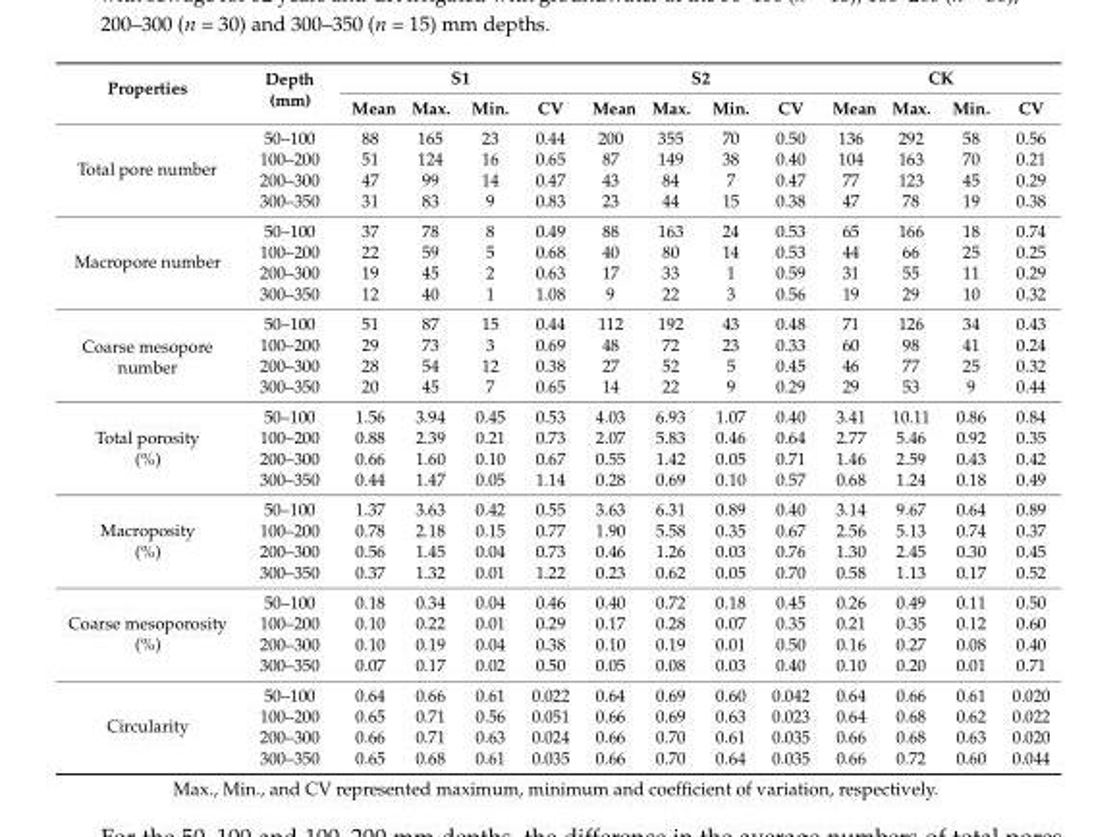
<table><thead><tr><td rowspan="2">Properties</td><td rowspan="2">Depth (mm)</td><td colspan="4">S1</td><td colspan="4">S2</td><td colspan="4">CK</td></tr><tr><td>Mean</td><td>Max.</td><td>Min.</td><td>CV</td><td>Mean</td><td>Max.</td><td>Min.</td><td>CV</td><td>Mean</td><td>Max.</td><td>Min.</td><td>CV</td></tr></thead><tbody><tr><td rowspan="4">Total pore number</td><td>50–100</td><td>88</td><td>165</td><td>23</td><td>0.44</td><td>200</td><td>355</td><td>70</td><td>0.50</td><td>136</td><td>292</td><td>58</td><td>0.56</td></tr><tr><td>100–200</td><td>51</td><td>124</td><td>16</td><td>0.65</td><td>87</td><td>149</td><td>38</td><td>0.40</td><td>104</td><td>163</td><td>70</td><td>0.21</td></tr><tr><td>200–300</td><td>47</td><td>99</td><td>14</td><td>0.47</td><td>43</td><td>84</td><td>7</td><td>0.47</td><td>77</td><td>123</td><td>45</td><td>0.29</td></tr><tr><td>300–350</td><td>31</td><td>83</td><td>9</td><td>0.83</td><td>23</td><td>44</td><td>15</td><td>0.38</td><td>47</td><td>78</td><td>19</td><td>0.38</td></tr><tr><td rowspan="4">Macropore number</td><td>50–100</td><td>37</td><td>78</td><td>8</td><td>0.49</td><td>88</td><td>163</td><td>24</td><td>0.53</td><td>65</td><td>166</td><td>18</td><td>0.74</td></tr><tr><td>100–200</td><td>22</td><td>59</td><td>5</td><td>0.68</td><td>40</td><td>80</td><td>14</td><td>0.53</td><td>44</td><td>66</td><td>25</td><td>0.25</td></tr><tr><td>200–300</td><td>19</td><td>45</td><td>2</td><td>0.63</td><td>17</td><td>33</td><td>1</td><td>0.59</td><td>31</td><td>55</td><td>11</td><td>0.29</td></tr><tr><td>300–350</td><td>12</td><td>40</td><td>1</td><td>1.08</td><td>9</td><td>22</td><td>3</td><td>0.56</td><td>19</td><td>29</td><td>10</td><td>0.32</td></tr><tr><td rowspan="4">Coarse mesopore number</td><td>50–100</td><td>51</td><td>87</td><td>15</td><td>0.44</td><td>112</td><td>192</td><td>43</td><td>0.48</td><td>71</td><td>126</td><td>34</td><td>0.43</td></tr><tr><td>100–200</td><td>29</td><td>73</td><td>3</td><td>0.69</td><td>48</td><td>72</td><td>23</td><td>0.33</td><td>60</td><td>98</td><td>41</td><td>0.24</td></tr><tr><td>200–300</td><td>28</td><td>54</td><td>12</td><td>0.38</td><td>27</td><td>52</td><td>5</td><td>0.45</td><td>46</td><td>77</td><td>25</td><td>0.32</td></tr><tr><td>300–350</td><td>20</td><td>45</td><td>7</td><td>0.65</td><td>14</td><td>22</td><td>9</td><td>0.29</td><td>29</td><td>53</td><td>9</td><td>0.44</td></tr><tr><td rowspan="4">Total porosity (%)</td><td>50–100</td><td>1.56</td><td>3.94</td><td>0.45</td><td>0.53</td><td>4.03</td><td>6.93</td><td>1.07</td><td>0.40</td><td>3.41</td><td>10.11</td><td>0.86</td><td>0.84</td></tr><tr><td>100–200</td><td>0.88</td><td>2.39</td><td>0.21</td><td>0.73</td><td>2.07</td><td>5.83</td><td>0.46</td><td>0.64</td><td>2.77</td><td>5.46</td><td>0.92</td><td>0.35</td></tr><tr><td>200–300</td><td>0.66</td><td>1.60</td><td>0.10</td><td>0.67</td><td>0.55</td><td>1.42</td><td>0.05</td><td>0.71</td><td>1.46</td><td>2.59</td><td>0.43</td><td>0.42</td></tr><tr><td>300–350</td><td>0.44</td><td>1.47</td><td>0.05</td><td>1.14</td><td>0.28</td><td>0.69</td><td>0.10</td><td>0.57</td><td>0.68</td><td>1.24</td><td>0.18</td><td>0.49</td></tr><tr><td rowspan="4">Macroposity (%)</td><td>50–100</td><td>1.37</td><td>3.63</td><td>0.42</td><td>0.55</td><td>3.63</td><td>6.31</td><td>0.89</td><td>0.40</td><td>3.14</td><td>9.67</td><td>0.64</td><td>0.89</td></tr><tr><td>100–200</td><td>0.78</td><td>2.18</td><td>0.15</td><td>0.77</td><td>1.90</td><td>5.58</td><td>0.35</td><td>0.67</td><td>2.56</td><td>5.13</td><td>0.74</td><td>0.37</td></tr><tr><td>200–300</td><td>0.56</td><td>1.45</td><td>0.04</td><td>0.73</td><td>0.46</td><td>1.26</td><td>0.03</td><td>0.76</td><td>1.30</td><td>2.45</td><td>0.30</td><td>0.45</td></tr><tr><td>300–350</td><td>0.37</td><td>1.32</td><td>0.01</td><td>1.22</td><td>0.23</td><td>0.62</td><td>0.05</td><td>0.70</td><td>0.58</td><td>1.13</td><td>0.17</td><td>0.52</td></tr><tr><td rowspan="4">Coarse mesoporosity (%)</td><td>50–100</td><td>0.18</td><td>0.34</td><td>0.04</td><td>0.46</td><td>0.40</td><td>0.72</td><td>0.18</td><td>0.45</td><td>0.26</td><td>0.49</td><td>0.11</td><td>0.50</td></tr><tr><td>100–200</td><td>0.10</td><td>0.22</td><td>0.01</td><td>0.29</td><td>0.17</td><td>0.28</td><td>0.07</td><td>0.35</td><td>0.21</td><td>0.35</td><td>0.12</td><td>0.60</td></tr><tr><td>200–300</td><td>0.10</td><td>0.19</td><td>0.04</td><td>0.38</td><td>0.10</td><td>0.19</td><td>0.01</td><td>0.50</td><td>0.16</td><td>0.27</td><td>0.08</td><td>0.40</td></tr><tr><td>300–350</td><td>0.07</td><td>0.17</td><td>0.02</td><td>0.50</td><td>0.05</td><td>0.08</td><td>0.03</td><td>0.40</td><td>0.10</td><td>0.20</td><td>0.01</td><td>0.71</td></tr><tr><td rowspan="4">Circularity</td><td>50–100</td><td>0.64</td><td>0.66</td><td>0.61</td><td>0.022</td><td>0.64</td><td>0.69</td><td>0.60</td><td>0.042</td><td>0.64</td><td>0.66</td><td>0.61</td><td>0.020</td></tr><tr><td>100–200</td><td>0.65</td><td>0.71</td><td>0.56</td><td>0.051</td><td>0.66</td><td>0.69</td><td>0.63</td><td>0.023</td><td>0.64</td><td>0.68</td><td>0.62</td><td>0.022</td></tr><tr><td>200–300</td><td>0.66</td><td>0.71</td><td>0.63</td><td>0.024</td><td>0.66</td><td>0.70</td><td>0.61</td><td>0.035</td><td>0.66</td><td>0.68</td><td>0.63</td><td>0.020</td></tr><tr><td>300–350</td><td>0.65</td><td>0.68</td><td>0.61</td><td>0.035</td><td>0.66</td><td>0.70</td><td>0.64</td><td>0.035</td><td>0.66</td><td>0.72</td><td>0.60</td><td>0.044</td></tr></tbody></table>